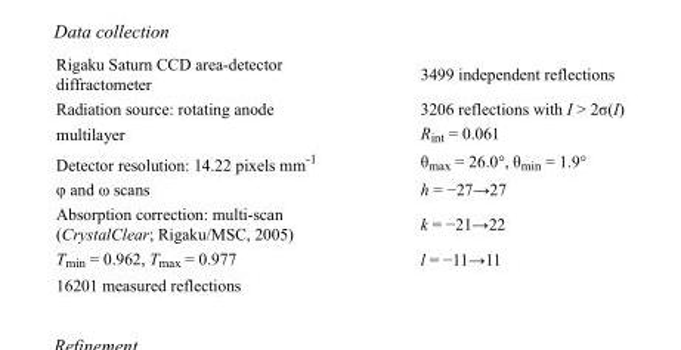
<table><tbody><tr><td>Rigaku Saturn CCD area-detector diffractometer</td><td>3499 independent reflections</td></tr><tr><td>Radiation source: rotating anode</td><td>3206 reflections with I &gt; 2σ(I)</td></tr><tr><td>multilayer</td><td>R<sub>int</sub> = 0.061</td></tr><tr><td>Detector resolution: 14.22 pixels mm<sup>-1</sup></td><td>θ<sub>max</sub> = 26.0°, θ<sub>min</sub> = 1.9°</td></tr><tr><td>φ and ω scans</td><td>h = −27→27</td></tr><tr><td>Absorption correction: multi-scan (CrystalClear; Rigaku/MSC, 2005)</td><td>k = −21→22</td></tr><tr><td>T<sub>min</sub> = 0.962, T<sub>max</sub> = 0.977</td><td>l = −11→11</td></tr><tr><td>16201 measured reflections</td><td></td></tr></tbody></table>